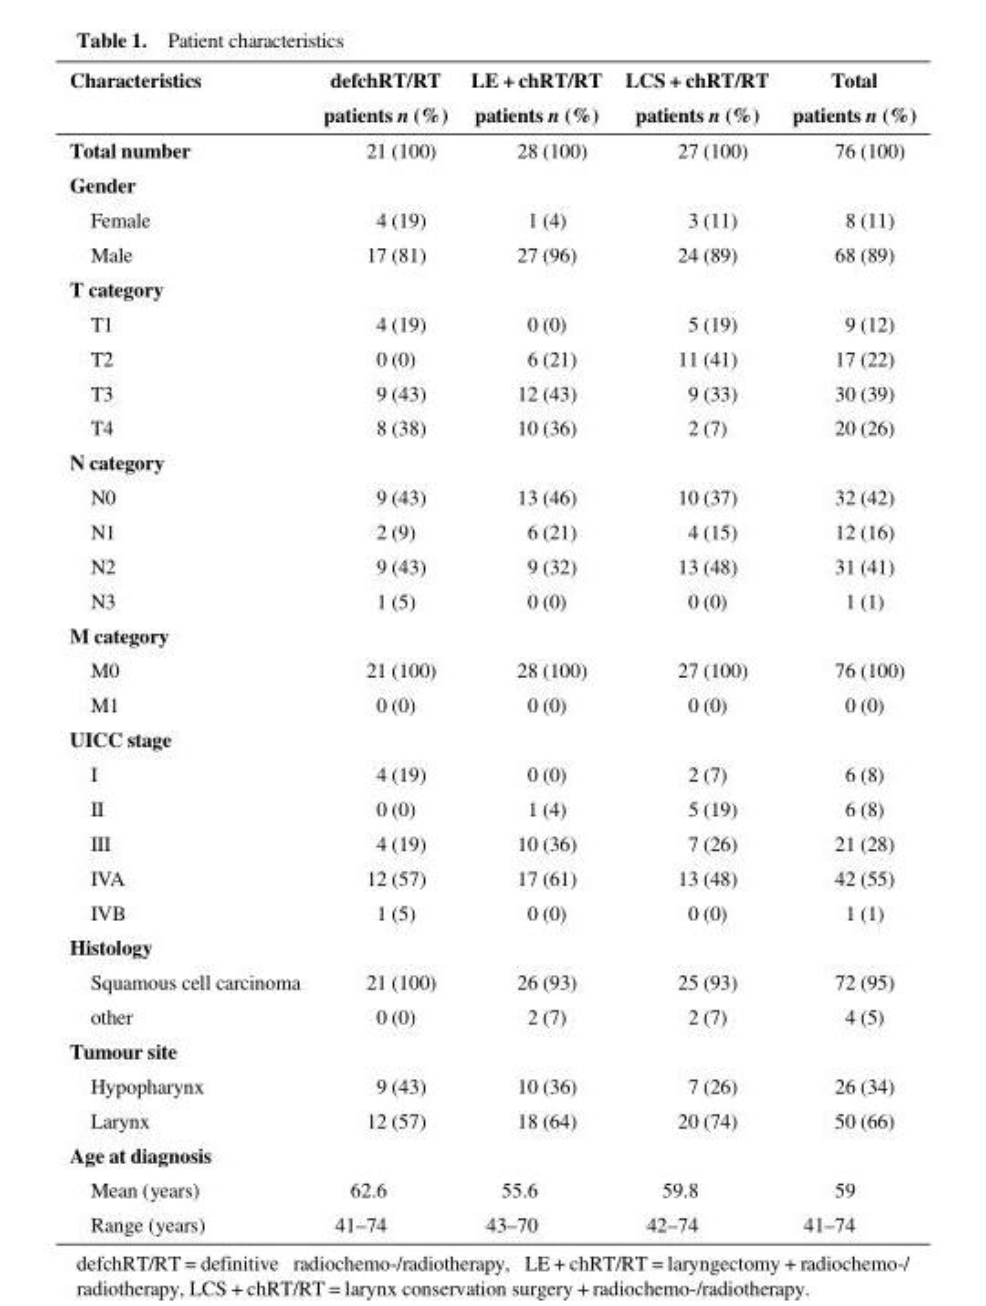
<table><thead><tr><td rowspan="2">Characteristics</td><td rowspan="2">defchRT/RT patients n (%)</td><td rowspan="2">LE + chRT/RT patients n (%)</td><td rowspan="2">LCS + chRT/RT patients n (%)</td><td rowspan="2">Total patients n (%)</td></tr><tr></tr></thead><tbody><tr><td>Total number</td><td>21 (100)</td><td>28 (100)</td><td>27 (100)</td><td>76 (100)</td></tr><tr><td colspan="5">Gender</td></tr><tr><td>Female</td><td>4 (19)</td><td>1 (4)</td><td>3 (11)</td><td>8 (11)</td></tr><tr><td>Male</td><td>17 (81)</td><td>27 (96)</td><td>24 (89)</td><td>68 (89)</td></tr><tr><td colspan="5">T category</td></tr><tr><td>T1</td><td>4 (19)</td><td>0 (0)</td><td>5 (19)</td><td>9 (12)</td></tr><tr><td>T2</td><td>0 (0)</td><td>6 (21)</td><td>11 (41)</td><td>17 (22)</td></tr><tr><td>T3</td><td>9 (43)</td><td>12 (43)</td><td>9 (33)</td><td>30 (39)</td></tr><tr><td>T4</td><td>8 (38)</td><td>10 (36)</td><td>2 (7)</td><td>20 (26)</td></tr><tr><td colspan="5">N category</td></tr><tr><td>N0</td><td>9 (43)</td><td>13 (46)</td><td>10 (37)</td><td>32 (42)</td></tr><tr><td>N1</td><td>2 (9)</td><td>6 (21)</td><td>4 (15)</td><td>12 (16)</td></tr><tr><td>N2</td><td>9 (43)</td><td>9 (32)</td><td>13 (48)</td><td>31 (41)</td></tr><tr><td>N3</td><td>1 (5)</td><td>0 (0)</td><td>0 (0)</td><td>1 (1)</td></tr><tr><td colspan="5">M category</td></tr><tr><td>M0</td><td>21 (100)</td><td>28 (100)</td><td>27 (100)</td><td>76 (100)</td></tr><tr><td>M1</td><td>0 (0)</td><td>0 (0)</td><td>0 (0)</td><td>0 (0)</td></tr><tr><td colspan="5">UICC stage</td></tr><tr><td>I</td><td>4 (19)</td><td>0 (0)</td><td>2 (7)</td><td>6 (8)</td></tr><tr><td>II</td><td>0 (0)</td><td>1 (4)</td><td>5 (19)</td><td>6 (8)</td></tr><tr><td>III</td><td>4 (19)</td><td>10 (36)</td><td>7 (26)</td><td>21 (28)</td></tr><tr><td>IVA</td><td>12 (57)</td><td>17 (61)</td><td>13 (48)</td><td>42 (55)</td></tr><tr><td>IVB</td><td>1 (5)</td><td>0 (0)</td><td>0 (0)</td><td>1 (1)</td></tr><tr><td colspan="5">Histology</td></tr><tr><td>Squamous cell carcinoma</td><td>21 (100)</td><td>26 (93)</td><td>25 (93)</td><td>72 (95)</td></tr><tr><td>other</td><td>0 (0)</td><td>2 (7)</td><td>2 (7)</td><td>4 (5)</td></tr><tr><td colspan="5">Tumour site</td></tr><tr><td>Hypopharynx</td><td>9 (43)</td><td>10 (36)</td><td>7 (26)</td><td>26 (34)</td></tr><tr><td>Larynx</td><td>12 (57)</td><td>18 (64)</td><td>20 (74)</td><td>50 (66)</td></tr><tr><td colspan="5">Age at diagnosis</td></tr><tr><td>Mean (years)</td><td>62.6</td><td>55.6</td><td>59.8</td><td>59</td></tr><tr><td>Range (years)</td><td>41–74</td><td>43–70</td><td>42–74</td><td>41–74</td></tr></tbody></table>